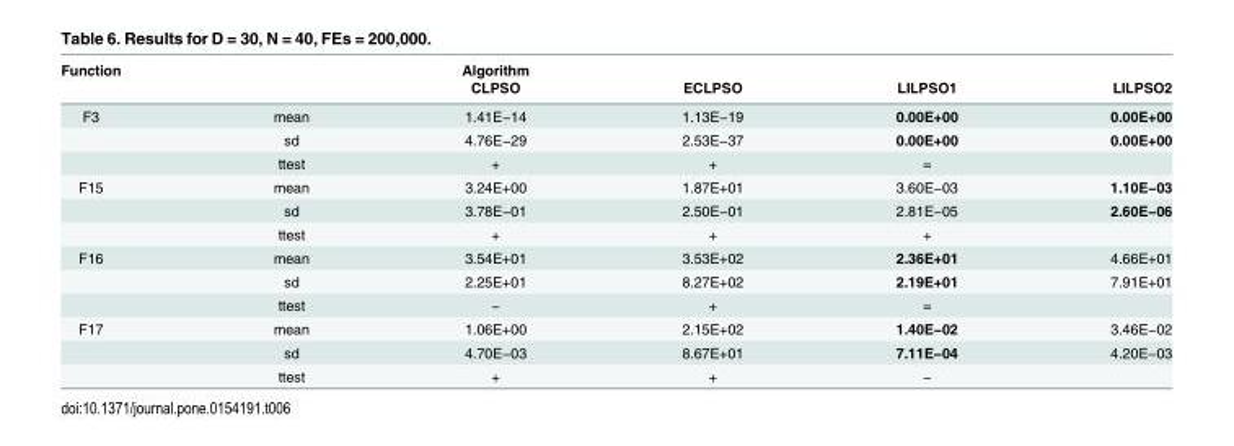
<table><thead><tr><td rowspan="2">Function</td><td rowspan="2"></td><td rowspan="2">Algorithm CLPSO</td><td rowspan="2">ECLPSO</td><td rowspan="2">LILPSO1</td><td rowspan="2">LILPSO2</td></tr><tr></tr></thead><tbody><tr><td rowspan="3">F3</td><td>mean</td><td>1.41E−14</td><td>1.13E−19</td><td>0.00E+00</td><td>0.00E+00</td></tr><tr><td>sd</td><td>4.76E−29</td><td>2.53E−37</td><td>0.00E+00</td><td>0.00E+00</td></tr><tr><td>ttest</td><td>+</td><td>+</td><td>=</td><td></td></tr><tr><td rowspan="3">F15</td><td>mean</td><td>3.24E+00</td><td>1.87E+01</td><td>3.60E−03</td><td>1.10E−03</td></tr><tr><td>sd</td><td>3.78E−01</td><td>2.50E−01</td><td>2.81E−05</td><td>2.60E−06</td></tr><tr><td>ttest</td><td>+</td><td>+</td><td>+</td><td></td></tr><tr><td rowspan="3">F16</td><td>mean</td><td>3.54E+01</td><td>3.53E+02</td><td>2.36E+01</td><td>4.66E+01</td></tr><tr><td>sd</td><td>2.25E+01</td><td>8.27E+02</td><td>2.19E+01</td><td>7.91E+01</td></tr><tr><td>ttest</td><td>−</td><td>+</td><td>=</td><td></td></tr><tr><td rowspan="3">F17</td><td>mean</td><td>1.06E+00</td><td>2.15E+02</td><td>1.40E−02</td><td>3.46E−02</td></tr><tr><td>sd</td><td>4.70E−03</td><td>8.67E+01</td><td>7.11E−04</td><td>4.20E−03</td></tr><tr><td>ttest</td><td>+</td><td>+</td><td>−</td><td></td></tr></tbody></table>